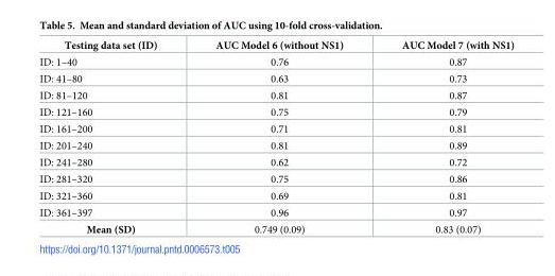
<table><thead><tr><td>Testing data set (ID)</td><td>AUC Model 6 (without NS1)</td><td>AUC Model 7 (with NS1)</td></tr></thead><tbody><tr><td>ID: 1–40</td><td>0.76</td><td>0.87</td></tr><tr><td>ID: 41–80</td><td>0.63</td><td>0.73</td></tr><tr><td>ID: 81–120</td><td>0.81</td><td>0.87</td></tr><tr><td>ID: 121–160</td><td>0.75</td><td>0.79</td></tr><tr><td>ID: 161–200</td><td>0.71</td><td>0.81</td></tr><tr><td>ID: 201–240</td><td>0.81</td><td>0.89</td></tr><tr><td>ID: 241–280</td><td>0.62</td><td>0.72</td></tr><tr><td>ID: 281–320</td><td>0.75</td><td>0.86</td></tr><tr><td>ID: 321–360</td><td>0.69</td><td>0.81</td></tr><tr><td>ID: 361–397</td><td>0.96</td><td>0.97</td></tr><tr><td>Mean (SD)</td><td>0.749 (0.09)</td><td>0.83 (0.07)</td></tr></tbody></table>